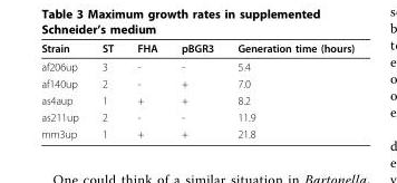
<table><thead><tr><td>Strain</td><td>ST</td><td>FHA</td><td>pBGR3</td><td>Generation time (hours)</td></tr></thead><tbody><tr><td>af206up</td><td>3</td><td>-</td><td>-</td><td>5.4</td></tr><tr><td>af140up</td><td>2</td><td>-</td><td>+</td><td>7.0</td></tr><tr><td>as4aup</td><td>1</td><td>+</td><td>+</td><td>8.2</td></tr><tr><td>as211up</td><td>2</td><td>-</td><td>-</td><td>11.9</td></tr><tr><td>mm3up</td><td>1</td><td>+</td><td>+</td><td>21.8</td></tr></tbody></table>